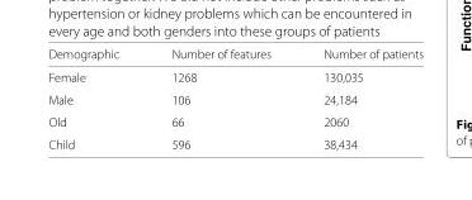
<table><thead><tr><td>Demographic</td><td>Number of features</td><td>Number of patients</td></tr></thead><tbody><tr><td>Female</td><td>1268</td><td>130,035</td></tr><tr><td>Male</td><td>106</td><td>24,184</td></tr><tr><td>Old</td><td>66</td><td>2060</td></tr><tr><td>Child</td><td>596</td><td>38,434</td></tr></tbody></table>